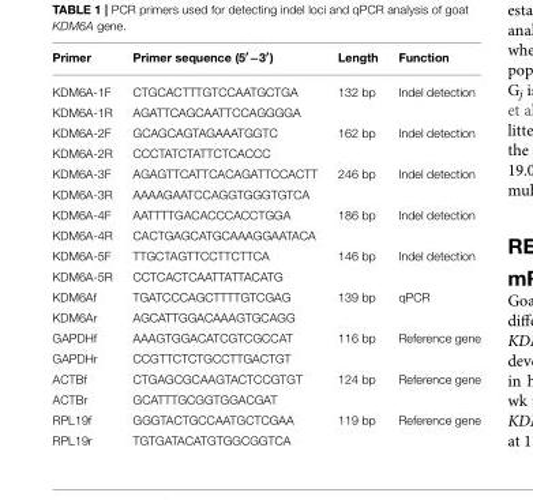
<table><thead><tr><td>Primer</td><td>Primer sequence (5′−3′)</td><td>Length</td><td>Function</td></tr></thead><tbody><tr><td>KDM6A-1F</td><td>CTGCACTTTGTCCAATGCTGA</td><td>132 bp</td><td>Indel detection</td></tr><tr><td>KDM6A-1R</td><td>AGATTCAGCAATTCCAGGGGA</td><td></td><td></td></tr><tr><td>KDM6A-2F</td><td>GCAGCAGTAGAAATGGTC</td><td>162 bp</td><td>Indel detection</td></tr><tr><td>KDM6A-2R</td><td>CCCTATCTATTCTCACCC</td><td></td><td></td></tr><tr><td>KDM6A-3F</td><td>AGAGTTCATTCACAGATTCCACTT</td><td>246 bp</td><td>Indel detection</td></tr><tr><td>KDM6A-3R</td><td>AAAAGAATCCAGGTGGGTGTCA</td><td></td><td></td></tr><tr><td>KDM6A-4F</td><td>AATTTTGACACCCACCTGGA</td><td>186 bp</td><td>Indel detection</td></tr><tr><td>KDM6A-4R</td><td>CACTGAGCATGCAAAGGAATACA</td><td></td><td></td></tr><tr><td>KDM6A-5F</td><td>TTGCTAGTTCCTTCTTCA</td><td>146 bp</td><td>Indel detection</td></tr><tr><td>KDM6A-5R</td><td>CCTCACTCAATTATTACATG</td><td></td><td></td></tr><tr><td>KDM6Af</td><td>TGATCCCAGCTTTTGTCGAG</td><td>139 bp</td><td>qPCR</td></tr><tr><td>KDM6Ar</td><td>AGCATTGGACAAAGTGCAGG</td><td></td><td></td></tr><tr><td>GAPDHf</td><td>AAAGTGGACATCGTCGCCAT</td><td>116 bp</td><td>Reference gene</td></tr><tr><td>GAPDHr</td><td>CCGTTCTCTGCCTTGACTGT</td><td></td><td></td></tr><tr><td>ACTBf</td><td>CTGAGCGCAAGTACTCCGTGT</td><td>124 bp</td><td>Reference gene</td></tr><tr><td>ACTBr</td><td>GCATTTGCGGTGGACGAT</td><td></td><td></td></tr><tr><td>RPL19f</td><td>GGGTACTGCCAATGCTCGAA</td><td>119 bp</td><td>Reference gene</td></tr><tr><td>RPL19r</td><td>TGTGATACATGTGGCGGTCA</td><td></td><td></td></tr></tbody></table>